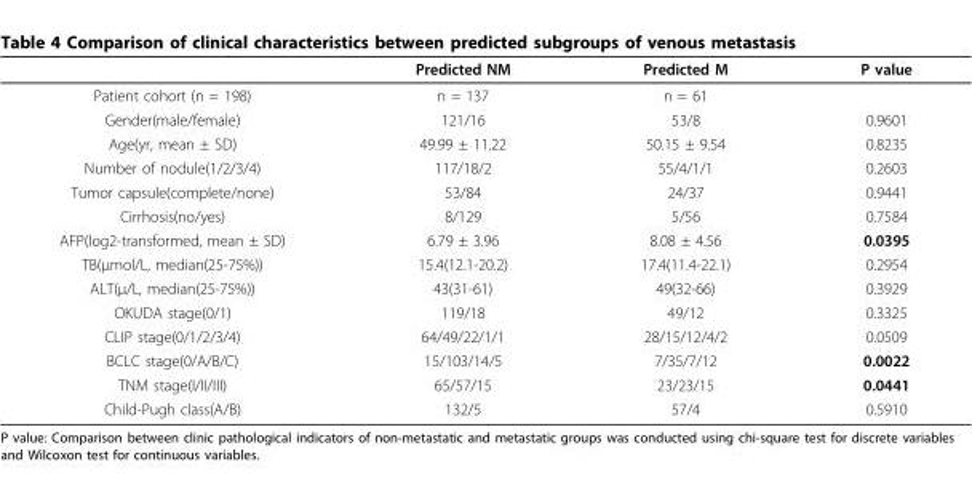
<table><thead><tr><td></td><td>Predicted NM</td><td>Predicted M</td><td>P value</td></tr></thead><tbody><tr><td>Patient cohort (n = 198)</td><td>n = 137</td><td>n = 61</td><td></td></tr><tr><td>Gender(male/female)</td><td>121/16</td><td>53/8</td><td>0.9601</td></tr><tr><td>Age(yr, mean ± SD)</td><td>49.99 ± 11.22</td><td>50.15 ± 9.54</td><td>0.8235</td></tr><tr><td>Number of nodule(1/2/3/4)</td><td>117/18/2</td><td>55/4/1/1</td><td>0.2603</td></tr><tr><td>Tumor capsule(complete/none)</td><td>53/84</td><td>24/37</td><td>0.9441</td></tr><tr><td>Cirrhosis(no/yes)</td><td>8/129</td><td>5/56</td><td>0.7584</td></tr><tr><td>AFP(log2-transformed, mean ± SD)</td><td>6.79 ± 3.96</td><td>8.08 ± 4.56</td><td>0.0395</td></tr><tr><td>TB(μmol/L, median(25-75%))</td><td>15.4(12.1-20.2)</td><td>17.4(11.4-22.1)</td><td>0.2954</td></tr><tr><td>ALT(μ/L, median(25-75%))</td><td>43(31-61)</td><td>49(32-66)</td><td>0.3929</td></tr><tr><td>OKUDA stage(0/1)</td><td>119/18</td><td>49/12</td><td>0.3325</td></tr><tr><td>CLIP stage(0/1/2/3/4)</td><td>64/49/22/1/1</td><td>28/15/12/4/2</td><td>0.0509</td></tr><tr><td>BCLC stage(0/A/B/C)</td><td>15/103/14/5</td><td>7/35/7/12</td><td>0.0022</td></tr><tr><td>TNM stage(I/II/III)</td><td>65/57/15</td><td>23/23/15</td><td>0.0441</td></tr><tr><td>Child-Pugh class(A/B)</td><td>132/5</td><td>57/4</td><td>0.5910</td></tr></tbody></table>